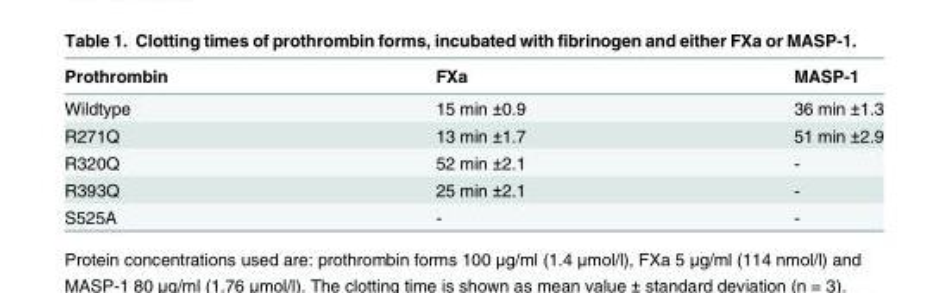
<table><thead><tr><td>Prothrombin</td><td>FXa</td><td>MASP-1</td></tr></thead><tbody><tr><td>Wildtype</td><td>15 min ±0.9</td><td>36 min ±1.3</td></tr><tr><td>R271Q</td><td>13 min ±1.7</td><td>51 min ±2.9</td></tr><tr><td>R320Q</td><td>52 min ±2.1</td><td>-</td></tr><tr><td>R393Q</td><td>25 min ±2.1</td><td>-</td></tr><tr><td>S525A</td><td>-</td><td>-</td></tr></tbody></table>